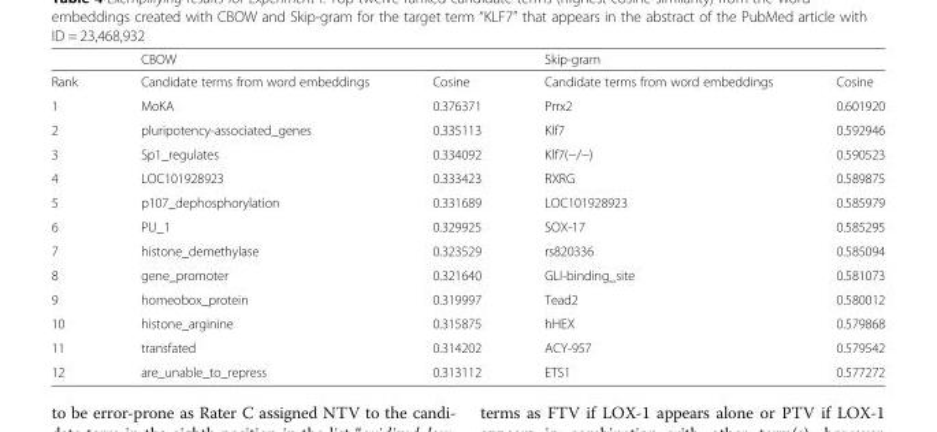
<table><thead><tr><td rowspan="2">Rank</td><td colspan="2">CBOW</td><td colspan="2">Skip-gram</td></tr><tr><td>Candidate terms from word embeddings</td><td>Cosine</td><td>Candidate terms from word embeddings</td><td>Cosine</td></tr></thead><tbody><tr><td>1</td><td>MoKA</td><td>0.376371</td><td>Prrx2</td><td>0.601920</td></tr><tr><td>2</td><td>pluripotency-associated_genes</td><td>0.335113</td><td>Klf7</td><td>0.592946</td></tr><tr><td>3</td><td>Sp1_regulates</td><td>0.334092</td><td>Klf7(−/−)</td><td>0.590523</td></tr><tr><td>4</td><td>LOC101928923</td><td>0.333423</td><td>RXRG</td><td>0.589875</td></tr><tr><td>5</td><td>p107_dephosphorylation</td><td>0.331689</td><td>LOC101928923</td><td>0.585979</td></tr><tr><td>6</td><td>PU_1</td><td>0.329925</td><td>SOX-17</td><td>0.585295</td></tr><tr><td>7</td><td>histone_demethylase</td><td>0.323529</td><td>rs820336</td><td>0.585094</td></tr><tr><td>8</td><td>gene_promoter</td><td>0.321640</td><td>GLI-binding_site</td><td>0.581073</td></tr><tr><td>9</td><td>homeobox_protein</td><td>0.319997</td><td>Tead2</td><td>0.580012</td></tr><tr><td>10</td><td>histone_arginine</td><td>0.315875</td><td>hHEX</td><td>0.579868</td></tr><tr><td>11</td><td>transfated</td><td>0.314202</td><td>ACY-957</td><td>0.579542</td></tr><tr><td>12</td><td>are_unable_to_repress</td><td>0.313112</td><td>ETS1</td><td>0.577272</td></tr></tbody></table>